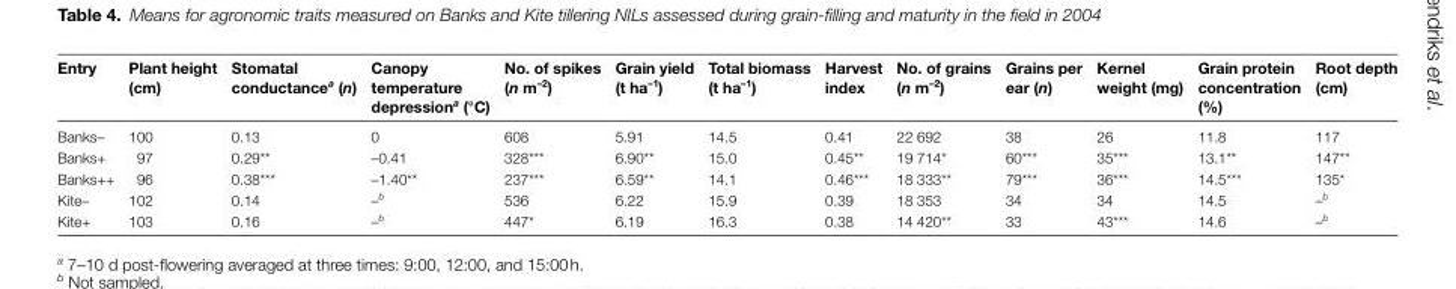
<table><thead><tr><td>Entry</td><td>Plant height (cm)</td><td>Stomatal conductance<sup>a</sup> (n)</td><td>Canopy temperature depression<sup>a</sup> (°C)</td><td>No. of spikes (n m<sup>–2</sup>)</td><td>Grain yield (t ha<sup>–1</sup>)</td><td>Total biomass (t ha<sup>–1</sup>)</td><td>Harvest index</td><td>No. of grains (n m<sup>–2</sup>)</td><td>Grains per ear (n)</td><td>Kernel weight (mg)</td><td>Grain protein concentration (%)</td><td>Root depth (cm)</td></tr></thead><tbody><tr><td>Banks–</td><td>100</td><td>0.13</td><td>0</td><td>608</td><td>5.91</td><td>14.5</td><td>0.41</td><td>22 692</td><td>38</td><td>26</td><td>11.8</td><td>117</td></tr><tr><td>Banks+</td><td>97</td><td>0.29**</td><td>–0.41</td><td>328***</td><td>6.90**</td><td>15.0</td><td>0.45**</td><td>19 714*</td><td>60***</td><td>35***</td><td>13.1**</td><td>147**</td></tr><tr><td>Banks++</td><td>96</td><td>0.38***</td><td>–1.40**</td><td>237***</td><td>6.59**</td><td>14.1</td><td>0.46***</td><td>18 333**</td><td>79***</td><td>36***</td><td>14.5***</td><td>135*</td></tr><tr><td>Kite–</td><td>102</td><td>0.14</td><td>–<sup>b</sup></td><td>536</td><td>6.22</td><td>15.9</td><td>0.39</td><td>18 353</td><td>34</td><td>34</td><td>14.5</td><td>–<sup>b</sup></td></tr><tr><td>Kite+</td><td>103</td><td>0.16</td><td>–<sup>b</sup></td><td>447*</td><td>6.19</td><td>16.3</td><td>0.38</td><td>14 420**</td><td>33</td><td>43***</td><td>14.6</td><td>–<sup>b</sup></td></tr></tbody></table>